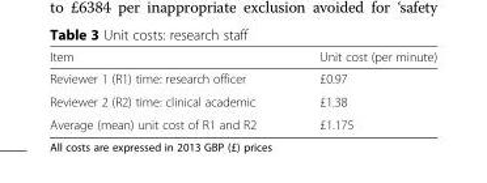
<table><thead><tr><td>Item</td><td>Unit cost (per minute)</td></tr></thead><tbody><tr><td>Reviewer 1 (R1) time: research officer</td><td>£0.97</td></tr><tr><td>Reviewer 2 (R2) time: clinical academic</td><td>£1.38</td></tr><tr><td>Average (mean) unit cost of R1 and R2</td><td>£1.175</td></tr></tbody></table>